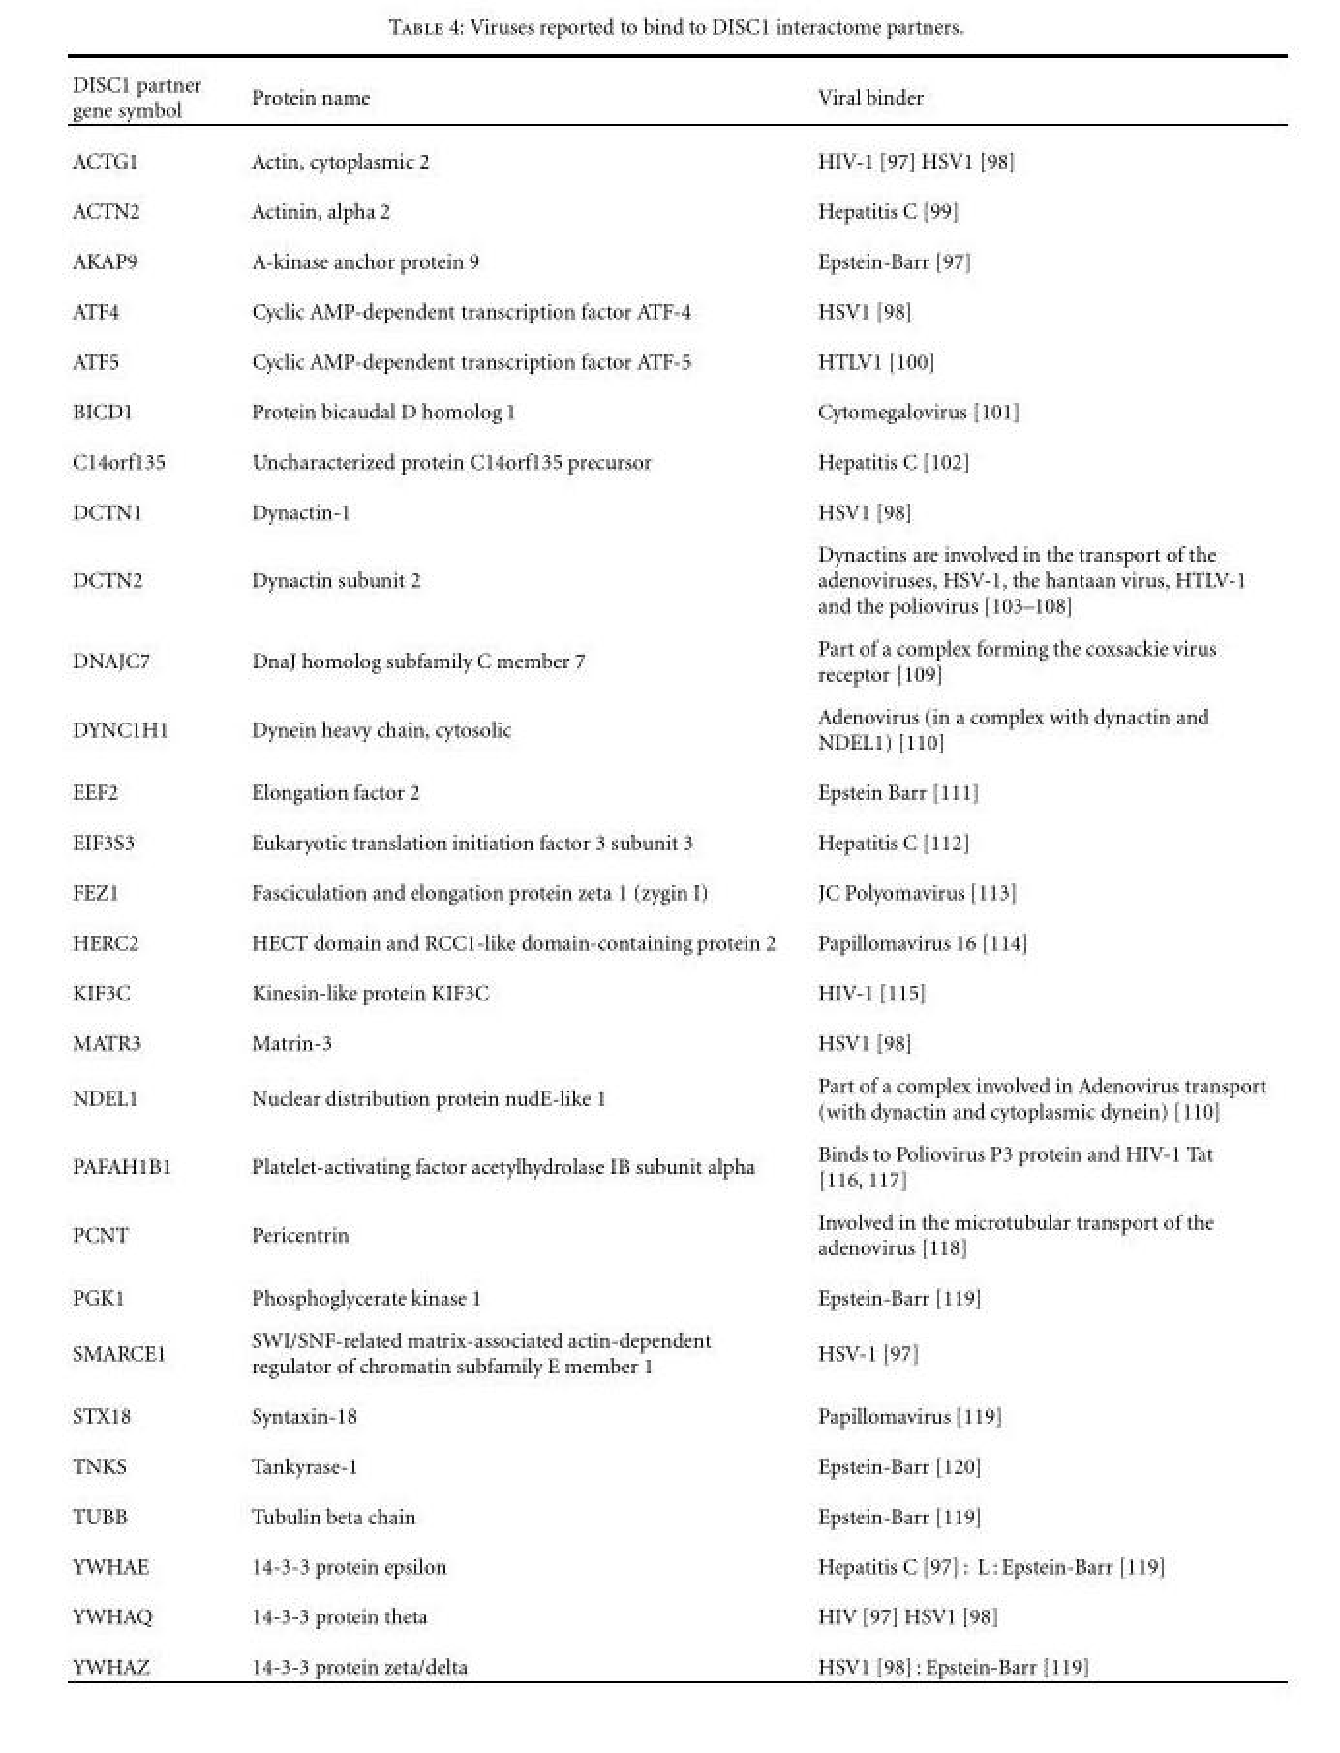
<table><thead><tr><td>DISC1 partner gene symbol</td><td>Protein name</td><td>Viral binder</td></tr></thead><tbody><tr><td>ACTG1</td><td>Actin, cytoplasmic 2</td><td>HIV-1 [97] HSV1 [98]</td></tr><tr><td>ACTN2</td><td>Actinin, alpha 2</td><td>Hepatitis C [99]</td></tr><tr><td>AKAP9</td><td>A-kinase anchor protein 9</td><td>Epstein-Barr [97]</td></tr><tr><td>ATF4</td><td>Cyclic AMP-dependent transcription factor ATF-4</td><td>HSV1 [98]</td></tr><tr><td>ATF5</td><td>Cyclic AMP-dependent transcription factor ATF-5</td><td>HTLV1 [100]</td></tr><tr><td>BICD1</td><td>Protein bicaudal D homolog 1</td><td>Cytomegalovirus [101]</td></tr><tr><td>C14orf135</td><td>Uncharacterized protein C14orf135 precursor</td><td>Hepatitis C [102]</td></tr><tr><td>DCTN1</td><td>Dynactin-1</td><td>HSV1 [98]</td></tr><tr><td>DCTN2</td><td>Dynactin subunit 2</td><td>Dynactins are involved in the transport of the adenoviruses, HSV-1, the hantaan virus, HTLV-1 and the poliovirus [103–108]</td></tr><tr><td>DNAJC7</td><td>DnaJ homolog subfamily C member 7</td><td>Part of a complex forming the coxsackie virus receptor [109]</td></tr><tr><td>DYNC1H1</td><td>Dynein heavy chain, cytosolic</td><td>Adenovirus (in a complex with dynactin and NDEL1) [110]</td></tr><tr><td>EEF2</td><td>Elongation factor 2</td><td>Epstein Barr [111]</td></tr><tr><td>EIF3S3</td><td>Eukaryotic translation initiation factor 3 subunit 3</td><td>Hepatitis C [112]</td></tr><tr><td>FEZ1</td><td>Fasciculation and elongation protein zeta 1 (zygin I)</td><td>JC Polyomavirus [113]</td></tr><tr><td>HERC2</td><td>HECT domain and RCC1-like domain-containing protein 2</td><td>Papillomavirus 16 [114]</td></tr><tr><td>KIF3C</td><td>Kinesin-like protein KIF3C</td><td>HIV-1 [115]</td></tr><tr><td>MATR3</td><td>Matrin-3</td><td>HSV1 [98]</td></tr><tr><td>NDEL1</td><td>Nuclear distribution protein nudE-like 1</td><td>Part of a complex involved in Adenovirus transport (with dynactin and cytoplasmic dynein) [110]</td></tr><tr><td>PAFAH1B1</td><td>Platelet-activating factor acetylhydrolase IB subunit alpha</td><td>Binds to Poliovirus P3 protein and HIV-1 Tat [116, 117]</td></tr><tr><td>PCNT</td><td>Pericentrin</td><td>Involved in the microtubular transport of the adenovirus [118]</td></tr><tr><td>PGK1</td><td>Phosphoglycerate kinase 1</td><td>Epstein-Barr [119]</td></tr><tr><td>SMARCE1</td><td>SWI/SNF-related matrix-associated actin-dependent regulator of chromatin subfamily E member 1</td><td>HSV-1 [97]</td></tr><tr><td>STX18</td><td>Syntaxin-18</td><td>Papillomavirus [119]</td></tr><tr><td>TNKS</td><td>Tankyrase-1</td><td>Epstein-Barr [120]</td></tr><tr><td>TUBB</td><td>Tubulin beta chain</td><td>Epstein-Barr [119]</td></tr><tr><td>YWHAE</td><td>14-3-3 protein epsilon</td><td>Hepatitis C [97] : L : Epstein-Barr [119]</td></tr><tr><td>YWHAQ</td><td>14-3-3 protein theta</td><td>HIV [97] HSV1 [98]</td></tr><tr><td>YWHAZ</td><td>14-3-3 protein zeta/delta</td><td>HSV1 [98] : Epstein-Barr [119]</td></tr></tbody></table>